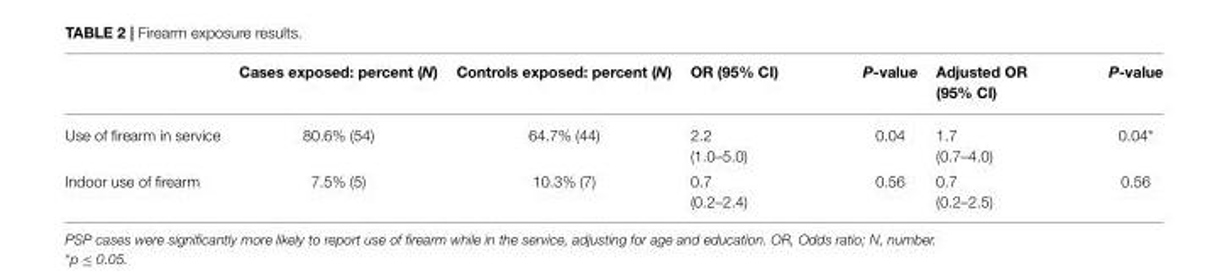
<table><thead><tr><td></td><td>Cases exposed: percent (N)</td><td>Controls exposed: percent (N)</td><td>OR (95% CI)</td><td>P-value</td><td>Adjusted OR (95% CI)</td><td>P-value</td></tr></thead><tbody><tr><td>Use of firearm in service</td><td>80.6% (54)</td><td>64.7% (44)</td><td>2.2 (1.0–5.0)</td><td>0.04</td><td>1.7 (0.7–4.0)</td><td>0.04*</td></tr><tr><td>Indoor use of firearm</td><td>7.5% (5)</td><td>10.3% (7)</td><td>0.7 (0.2–2.4)</td><td>0.56</td><td>0.7 (0.2–2.5)</td><td>0.56</td></tr></tbody></table>